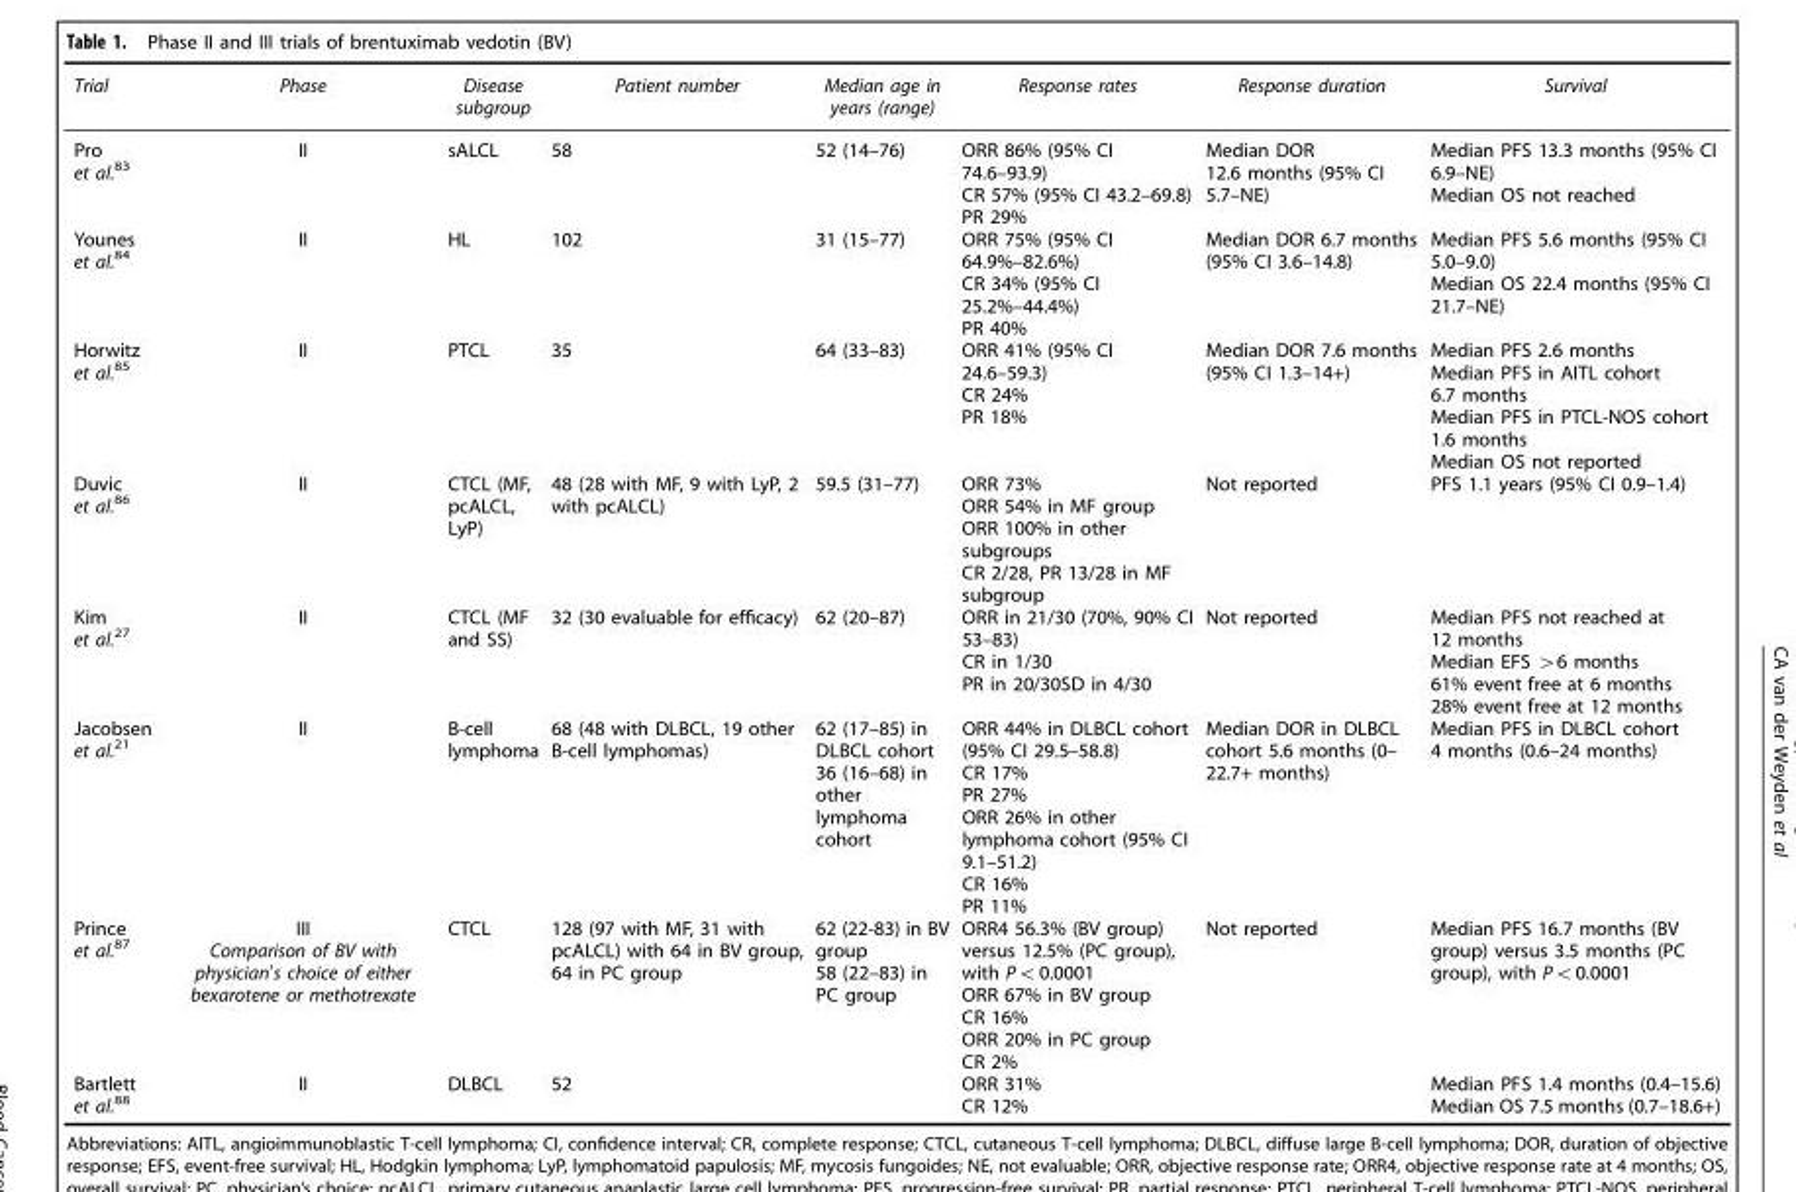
<table><thead><tr><td>Trial</td><td>Phase</td><td>Disease subgroup</td><td>Patient number</td><td>Median age in years (range)</td><td>Response rates</td><td>Response duration</td><td>Survival</td></tr></thead><tbody><tr><td>Pro et al.<sup>83</sup></td><td>II</td><td>sALCL</td><td>58</td><td>52 (14–76)</td><td>ORR 86% (95% CI 74.6–93.9) CR 57% (95% CI 43.2–69.8) PR 29%</td><td>Median DOR 12.6 months (95% CI 5.7–NE)</td><td>Median PFS 13.3 months (95% CI 6.9–NE) Median OS not reached</td></tr><tr><td>Younes et al.<sup>84</sup></td><td>II</td><td>HL</td><td>102</td><td>31 (15–77)</td><td>ORR 75% (95% CI 64.9%–82.6%) CR 34% (95% CI 25.2%–44.4%) PR 40%</td><td>Median DOR 6.7 months (95% CI 3.6–14.8)</td><td>Median PFS 5.6 months (95% CI 5.0–9.0) Median OS 22.4 months (95% CI 21.7–NE)</td></tr><tr><td>Horwitz et al.<sup>85</sup></td><td>II</td><td>PTCL</td><td>35</td><td>64 (33–83)</td><td>ORR 41% (95% CI 24.6–59.3) CR 24% PR 18%</td><td>Median DOR 7.6 months (95% CI 1.3–14+)</td><td>Median PFS 2.6 months Median PFS in AITL cohort 6.7 months Median PFS in PTCL-NOS cohort 1.6 months Median OS not reported</td></tr><tr><td>Duvic et al.<sup>86</sup></td><td>II</td><td>CTCL (MF, pcALCL, LyP)</td><td>48 (28 with MF, 9 with LyP, 2 with pcALCL)</td><td>59.5 (31–77)</td><td>ORR 73% ORR 54% in MF group ORR 100% in other subgroups CR 2/28, PR 13/28 in MF subgroup</td><td>Not reported</td><td>PFS 1.1 years (95% CI 0.9–1.4)</td></tr><tr><td>Kim et al.<sup>27</sup></td><td>II</td><td>CTCL (MF and SS)</td><td>32 (30 evaluable for efficacy)</td><td>62 (20–87)</td><td>ORR in 21/30 (70%, 90% CI 53–83) CR in 1/30 PR in 20/30SD in 4/30</td><td>Not reported</td><td>Median PFS not reached at 12 months Median EFS &gt;6 months 61% event free at 6 months 28% event free at 12 months</td></tr><tr><td>Jacobsen et al.<sup>21</sup></td><td>II</td><td>B-cell lymphoma</td><td>68 (48 with DLBCL, 19 other B-cell lymphomas)</td><td>62 (17–85) in DLBCL cohort 36 (16–68) in other lymphoma cohort</td><td>ORR 44% in DLBCL cohort (95% CI 29.5–58.8) CR 17% PR 27% ORR 26% in other lymphoma cohort (95% CI 9.1–51.2) CR 16% PR 11%</td><td>Median DOR in DLBCL cohort 5.6 months (0– 22.7+ months)</td><td>Median PFS in DLBCL cohort 4 months (0.6–24 months)</td></tr><tr><td>Prince et al.<sup>87</sup></td><td>III Comparison of BV with physician’s choice of either bexarotene or methotrexate</td><td>CTCL</td><td>128 (97 with MF, 31 with pcALCL) with 64 in BV group, 64 in PC group</td><td>62 (22-83) in BV group 58 (22–83) in PC group</td><td>ORR4 56.3% (BV group) versus 12.5% (PC group), with P&lt;0.0001 ORR 67% in BV group CR 16% ORR 20% in PC group CR 2%</td><td>Not reported</td><td>Median PFS 16.7 months (BV group) versus 3.5 months (PC group), with P&lt;0.0001</td></tr><tr><td>Bartlett et al.<sup>88</sup></td><td>II</td><td>DLBCL</td><td>52</td><td></td><td>ORR 31% CR 12%</td><td></td><td>Median PFS 1.4 months (0.4–15.6) Median OS 7.5 months (0.7–18.6+)</td></tr></tbody></table>